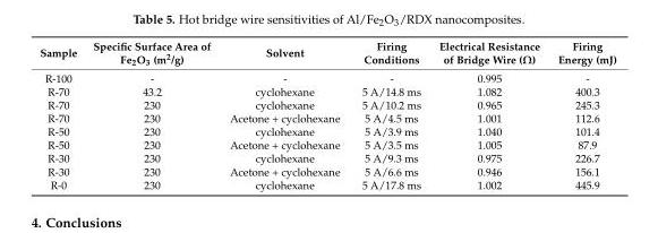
<table><thead><tr><td>Sample</td><td>Specific Surface Area of Fe<sub>2</sub>O<sub>3</sub> (m<sup>2</sup>/g)</td><td>Solvent</td><td>Firing Conditions</td><td>Electrical Resistance of Bridge Wire (Ω)</td><td>Firing Energy (mJ)</td></tr></thead><tbody><tr><td>R-100</td><td>-</td><td>-</td><td>-</td><td>0.995</td><td>-</td></tr><tr><td>R-70</td><td>43.2</td><td>cyclohexane</td><td>5 A/14.8 ms</td><td>1.082</td><td>400.3</td></tr><tr><td>R-70</td><td>230</td><td>cyclohexane</td><td>5 A/10.2 ms</td><td>0.965</td><td>245.3</td></tr><tr><td>R-70</td><td>230</td><td>Acetone + cyclohexane</td><td>5 A/4.5 ms</td><td>1.001</td><td>112.6</td></tr><tr><td>R-50</td><td>230</td><td>cyclohexane</td><td>5 A/3.9 ms</td><td>1.040</td><td>101.4</td></tr><tr><td>R-50</td><td>230</td><td>Acetone + cyclohexane</td><td>5 A/3.5 ms</td><td>1.005</td><td>87.9</td></tr><tr><td>R-30</td><td>230</td><td>cyclohexane</td><td>5 A/9.3 ms</td><td>0.975</td><td>226.7</td></tr><tr><td>R-30</td><td>230</td><td>Acetone + cyclohexane</td><td>5 A/6.6 ms</td><td>0.946</td><td>156.1</td></tr><tr><td>R-0</td><td>230</td><td>cyclohexane</td><td>5 A/17.8 ms</td><td>1.002</td><td>445.9</td></tr></tbody></table>